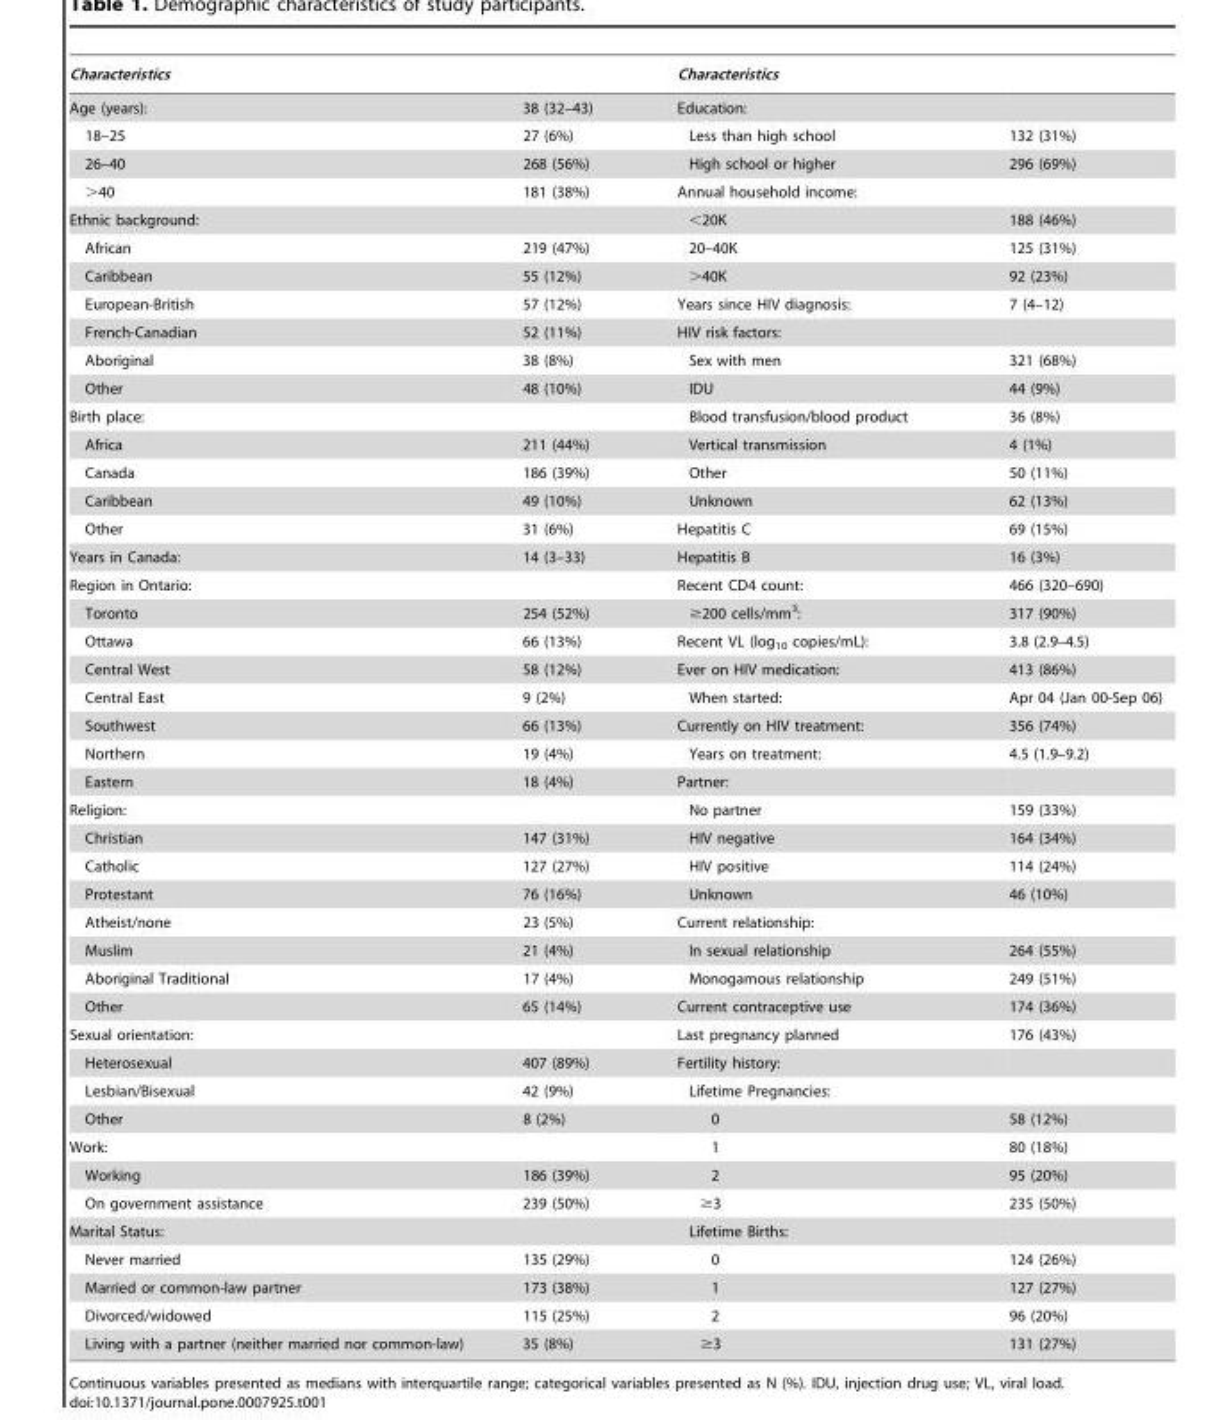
<table><thead><tr><td>Characteristics</td><td></td><td>Characteristics</td><td></td></tr></thead><tbody><tr><td>Age (years):</td><td>38 (32–43)</td><td>Education:</td><td></td></tr><tr><td>18–25</td><td>27 (6%)</td><td>Less than high school</td><td>132 (31%)</td></tr><tr><td>26–40</td><td>268 (56%)</td><td>High school or higher</td><td>296 (69%)</td></tr><tr><td>&gt;40</td><td>181 (38%)</td><td>Annual household income:</td><td></td></tr><tr><td>Ethnic background:</td><td></td><td>&lt;20K</td><td>188 (46%)</td></tr><tr><td>African</td><td>219 (47%)</td><td>20–40K</td><td>125 (31%)</td></tr><tr><td>Caribbean</td><td>55 (12%)</td><td>&gt;40K</td><td>92 (23%)</td></tr><tr><td>European-British</td><td>57 (12%)</td><td>Years since HIV diagnosis:</td><td>7 (4–12)</td></tr><tr><td>French-Canadian</td><td>52 (11%)</td><td>HIV risk factors:</td><td></td></tr><tr><td>Aboriginal</td><td>38 (8%)</td><td>Sex with men</td><td>321 (68%)</td></tr><tr><td>Other</td><td>48 (10%)</td><td>IDU</td><td>44 (9%)</td></tr><tr><td>Birth place:</td><td></td><td>Blood transfusion/blood product</td><td>36 (8%)</td></tr><tr><td>Africa</td><td>211 (44%)</td><td>Vertical transmission</td><td>4 (1%)</td></tr><tr><td>Canada</td><td>186 (39%)</td><td>Other</td><td>50 (11%)</td></tr><tr><td>Caribbean</td><td>49 (10%)</td><td>Unknown</td><td>62 (13%)</td></tr><tr><td>Other</td><td>31 (6%)</td><td>Hepatitis C</td><td>69 (15%)</td></tr><tr><td>Years in Canada:</td><td>14 (3–33)</td><td>Hepatitis B</td><td>16 (3%)</td></tr><tr><td>Region in Ontario:</td><td></td><td>Recent CD4 count:</td><td>466 (320–690)</td></tr><tr><td>Toronto</td><td>254 (52%)</td><td>≥200 cells/mm<sup>3</sup>:</td><td>317 (90%)</td></tr><tr><td>Ottawa</td><td>66 (13%)</td><td>Recent VL (log<sub>10</sub> copies/mL):</td><td>3.8 (2.9–4.5)</td></tr><tr><td>Central West</td><td>58 (12%)</td><td>Ever on HIV medication:</td><td>413 (86%)</td></tr><tr><td>Central East</td><td>9 (2%)</td><td>When started:</td><td>Apr 04 (Jan 00-Sep 06)</td></tr><tr><td>Southwest</td><td>66 (13%)</td><td>Currently on HIV treatment:</td><td>356 (74%)</td></tr><tr><td>Northern</td><td>19 (4%)</td><td>Years on treatment:</td><td>4.5 (1.9–9.2)</td></tr><tr><td>Eastern</td><td>18 (4%)</td><td>Partner:</td><td></td></tr><tr><td>Religion:</td><td></td><td>No partner</td><td>159 (33%)</td></tr><tr><td>Christian</td><td>147 (31%)</td><td>HIV negative</td><td>164 (34%)</td></tr><tr><td>Catholic</td><td>127 (27%)</td><td>HIV positive</td><td>114 (24%)</td></tr><tr><td>Protestant</td><td>76 (16%)</td><td>Unknown</td><td>46 (10%)</td></tr><tr><td>Atheist/none</td><td>23 (5%)</td><td>Current relationship:</td><td></td></tr><tr><td>Muslim</td><td>21 (4%)</td><td>In sexual relationship</td><td>264 (55%)</td></tr><tr><td>Aboriginal Traditional</td><td>17 (4%)</td><td>Monogamous relationship</td><td>249 (51%)</td></tr><tr><td>Other</td><td>65 (14%)</td><td>Current contraceptive use</td><td>174 (36%)</td></tr><tr><td>Sexual orientation:</td><td></td><td>Last pregnancy planned</td><td>176 (43%)</td></tr><tr><td>Heterosexual</td><td>407 (89%)</td><td>Fertility history:</td><td></td></tr><tr><td>Lesbian/Bisexual</td><td>42 (9%)</td><td>Lifetime Pregnancies:</td><td></td></tr><tr><td>Other</td><td>8 (2%)</td><td>0</td><td>58 (12%)</td></tr><tr><td>Work:</td><td></td><td>1</td><td>80 (18%)</td></tr><tr><td>Working</td><td>186 (39%)</td><td>2</td><td>95 (20%)</td></tr><tr><td>On government assistance</td><td>239 (50%)</td><td>≥3</td><td>235 (50%)</td></tr><tr><td>Marital Status:</td><td></td><td>Lifetime Births:</td><td></td></tr><tr><td>Never married</td><td>135 (29%)</td><td>0</td><td>124 (26%)</td></tr><tr><td>Married or common-law partner</td><td>173 (38%)</td><td>1</td><td>127 (27%)</td></tr><tr><td>Divorced/widowed</td><td>115 (25%)</td><td>2</td><td>96 (20%)</td></tr><tr><td>Living with a partner (neither married nor common-law)</td><td>35 (8%)</td><td>≥3</td><td>131 (27%)</td></tr></tbody></table>